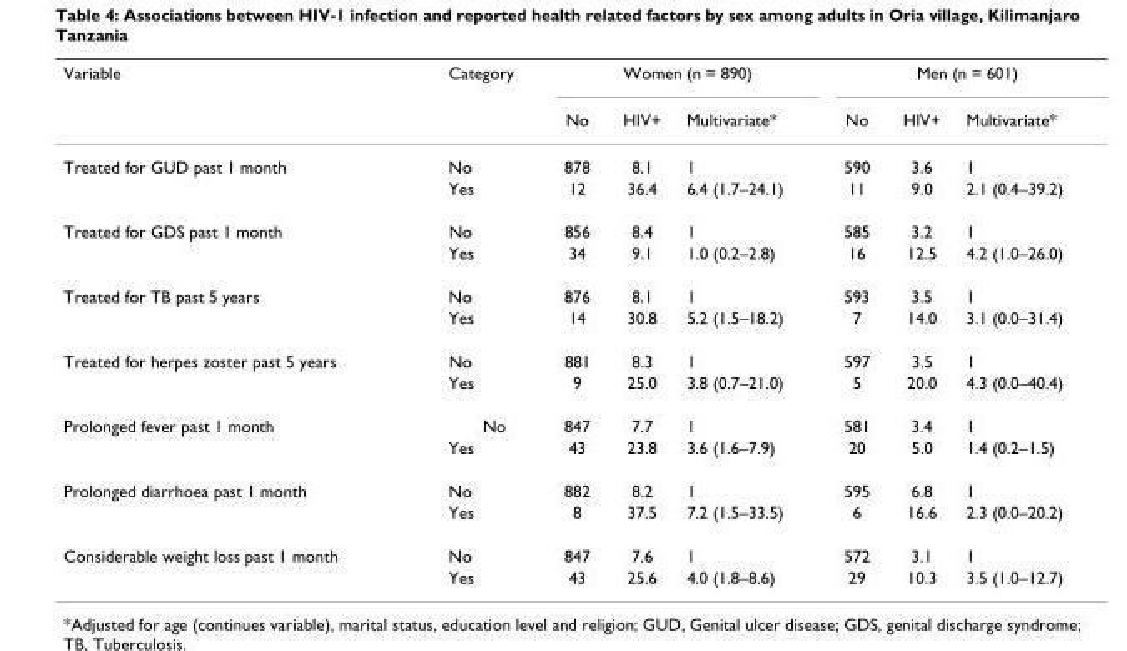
<table><thead><tr><td rowspan="2">Variable</td><td rowspan="2">Category</td><td colspan="3">Women (n = 890)</td><td colspan="3">Men (n = 601)</td></tr><tr><td>No</td><td>HIV+</td><td>Multivariate*</td><td>No</td><td>HIV+</td><td>Multivariate*</td></tr></thead><tbody><tr><td rowspan="2">Treated for GUD past 1 month</td><td>No</td><td>878</td><td>8.1</td><td>1</td><td>590</td><td>3.6</td><td>1</td></tr><tr><td>Yes</td><td>12</td><td>36.4</td><td>6.4 (1.7–24.1)</td><td>11</td><td>9.0</td><td>2.1 (0.4–39.2)</td></tr><tr><td rowspan="2">Treated for GDS past 1 month</td><td>No</td><td>856</td><td>8.4</td><td>1</td><td>585</td><td>3.2</td><td>1</td></tr><tr><td>Yes</td><td>34</td><td>9.1</td><td>1.0 (0.2–2.8)</td><td>16</td><td>12.5</td><td>4.2 (1.0–26.0)</td></tr><tr><td rowspan="2">Treated for TB past 5 years</td><td>No</td><td>876</td><td>8.1</td><td>1</td><td>593</td><td>3.5</td><td>1</td></tr><tr><td>Yes</td><td>14</td><td>30.8</td><td>5.2 (1.5–18.2)</td><td>7</td><td>14.0</td><td>3.1 (0.0–31.4)</td></tr><tr><td rowspan="2">Treated for herpes zoster past 5 years</td><td>No</td><td>881</td><td>8.3</td><td>1</td><td>597</td><td>3.5</td><td>1</td></tr><tr><td>Yes</td><td>9</td><td>25.0</td><td>3.8 (0.7–21.0)</td><td>5</td><td>20.0</td><td>4.3 (0.0–40.4)</td></tr><tr><td rowspan="2">Prolonged fever past 1 month</td><td>No</td><td>847</td><td>7.7</td><td>1</td><td>581</td><td>3.4</td><td>1</td></tr><tr><td>Yes</td><td>43</td><td>23.8</td><td>3.6 (1.6–7.9)</td><td>20</td><td>5.0</td><td>1.4 (0.2–1.5)</td></tr><tr><td rowspan="2">Prolonged diarrhoea past 1 month</td><td>No</td><td>882</td><td>8.2</td><td>1</td><td>595</td><td>6.8</td><td>1</td></tr><tr><td>Yes</td><td>8</td><td>37.5</td><td>7.2 (1.5–33.5)</td><td>6</td><td>16.6</td><td>2.3 (0.0–20.2)</td></tr><tr><td rowspan="2">Considerable weight loss past 1 month</td><td>No</td><td>847</td><td>7.6</td><td>1</td><td>572</td><td>3.1</td><td>1</td></tr><tr><td>Yes</td><td>43</td><td>25.6</td><td>4.0 (1.8–8.6)</td><td>29</td><td>10.3</td><td>3.5 (1.0–12.7)</td></tr></tbody></table>